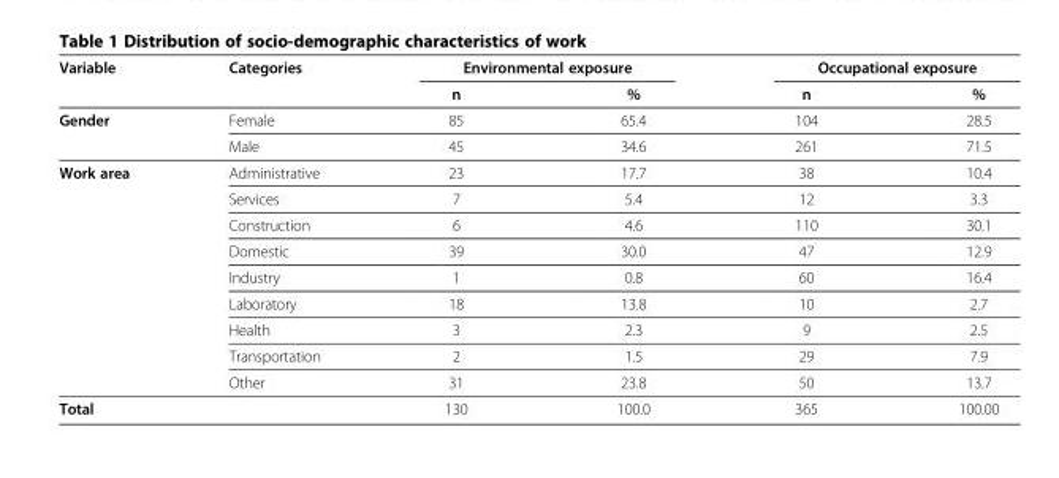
<table><thead><tr><td rowspan="2">Variable</td><td rowspan="2">Categories</td><td colspan="2">Environmental exposure</td><td colspan="2">Occupational exposure</td></tr><tr><td>n</td><td>%</td><td>n</td><td>%</td></tr></thead><tbody><tr><td rowspan="2">Gender</td><td>Female</td><td>85</td><td>65.4</td><td>104</td><td>28.5</td></tr><tr><td>Male</td><td>45</td><td>34.6</td><td>261</td><td>71.5</td></tr><tr><td rowspan="9">Work area</td><td>Administrative</td><td>23</td><td>17.7</td><td>38</td><td>10.4</td></tr><tr><td>Services</td><td>7</td><td>5.4</td><td>12</td><td>3.3</td></tr><tr><td>Construction</td><td>6</td><td>4.6</td><td>110</td><td>30.1</td></tr><tr><td>Domestic</td><td>39</td><td>30.0</td><td>47</td><td>12.9</td></tr><tr><td>Industry</td><td>1</td><td>0.8</td><td>60</td><td>16.4</td></tr><tr><td>Laboratory</td><td>18</td><td>13.8</td><td>10</td><td>2.7</td></tr><tr><td>Health</td><td>3</td><td>2.3</td><td>9</td><td>2.5</td></tr><tr><td>Transportation</td><td>2</td><td>1.5</td><td>29</td><td>7.9</td></tr><tr><td>Other</td><td>31</td><td>23.8</td><td>50</td><td>13.7</td></tr><tr><td>Total</td><td></td><td>130</td><td>100.0</td><td>365</td><td>100.00</td></tr></tbody></table>